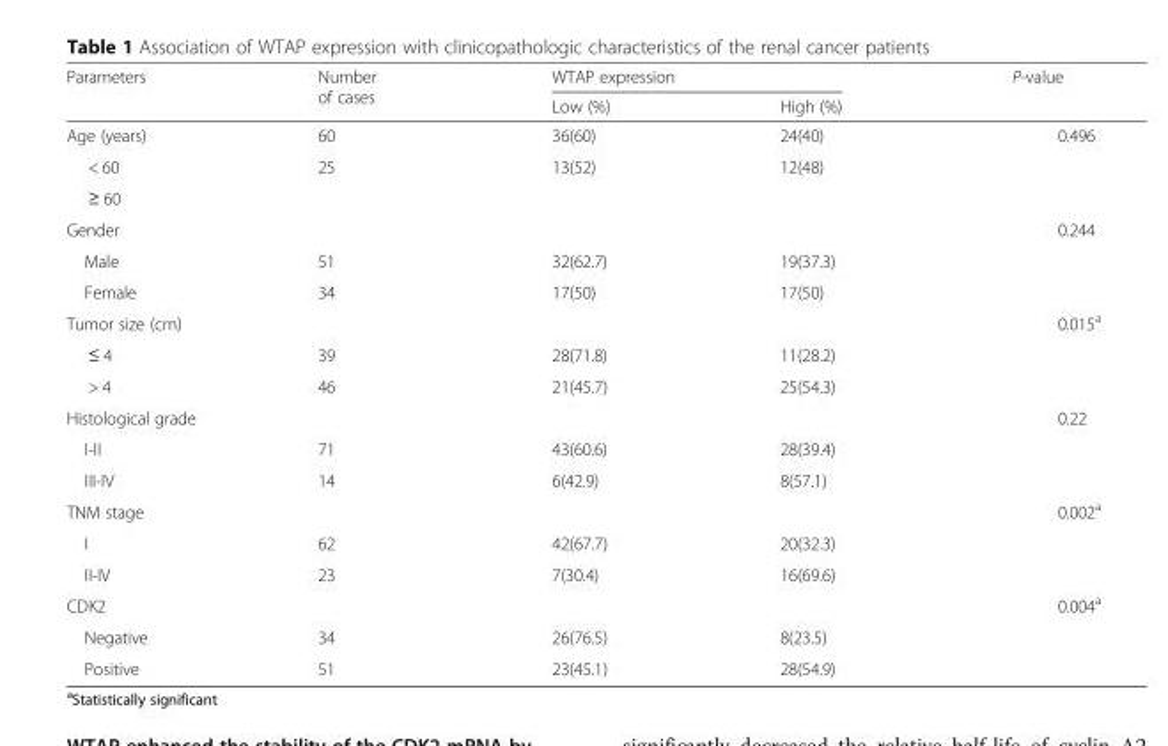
<table><thead><tr><td rowspan="2">Parameters</td><td rowspan="2">Number of cases</td><td colspan="2">WTAP expression</td><td rowspan="2">P-value</td></tr><tr><td>Low (%)</td><td>High (%)</td></tr></thead><tbody><tr><td>Age (years)</td><td>60</td><td>36(60)</td><td>24(40)</td><td>0.496</td></tr><tr><td>&lt; 60</td><td>25</td><td>13(52)</td><td>12(48)</td><td></td></tr><tr><td colspan="5">≥ 60</td></tr><tr><td colspan="4">Gender</td><td>0.244</td></tr><tr><td>Male</td><td>51</td><td>32(62.7)</td><td>19(37.3)</td><td></td></tr><tr><td>Female</td><td>34</td><td>17(50)</td><td>17(50)</td><td></td></tr><tr><td colspan="4">Tumor size (cm)</td><td>0.015<sup>a</sup></td></tr><tr><td>≤ 4</td><td>39</td><td>28(71.8)</td><td>11(28.2)</td><td></td></tr><tr><td>&gt; 4</td><td>46</td><td>21(45.7)</td><td>25(54.3)</td><td></td></tr><tr><td colspan="4">Histological grade</td><td>0.22</td></tr><tr><td>I-II</td><td>71</td><td>43(60.6)</td><td>28(39.4)</td><td></td></tr><tr><td>III-IV</td><td>14</td><td>6(42.9)</td><td>8(57.1)</td><td></td></tr><tr><td colspan="4">TNM stage</td><td>0.002<sup>a</sup></td></tr><tr><td>I</td><td>62</td><td>42(67.7)</td><td>20(32.3)</td><td></td></tr><tr><td>II-IV</td><td>23</td><td>7(30.4)</td><td>16(69.6)</td><td></td></tr><tr><td colspan="4">CDK2</td><td>0.004<sup>a</sup></td></tr><tr><td>Negative</td><td>34</td><td>26(76.5)</td><td>8(23.5)</td><td></td></tr><tr><td>Positive</td><td>51</td><td>23(45.1)</td><td>28(54.9)</td><td></td></tr></tbody></table>